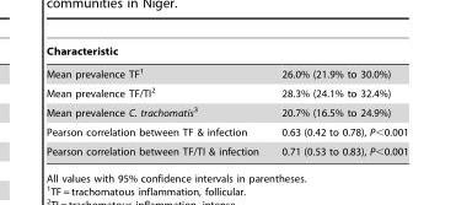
<table><thead><tr><td>Characteristic</td><td></td></tr></thead><tbody><tr><td>Mean prevalence TF<sup>1</sup></td><td>26.0% (21.9% to 30.0%)</td></tr><tr><td>Mean prevalence TF/TI<sup>2</sup></td><td>28.3% (24.1% to 32.4%)</td></tr><tr><td>Mean prevalence C. trachomatis3</td><td>20.7% (16.5% to 24.9%)</td></tr><tr><td>Pearson correlation between TF &amp; infection</td><td>0.63 (0.42 to 0.78), P&lt;0.001</td></tr><tr><td>Pearson correlation between TF/TI &amp; infection</td><td>0.71 (0.53 to 0.83), P&lt;0.001</td></tr></tbody></table>